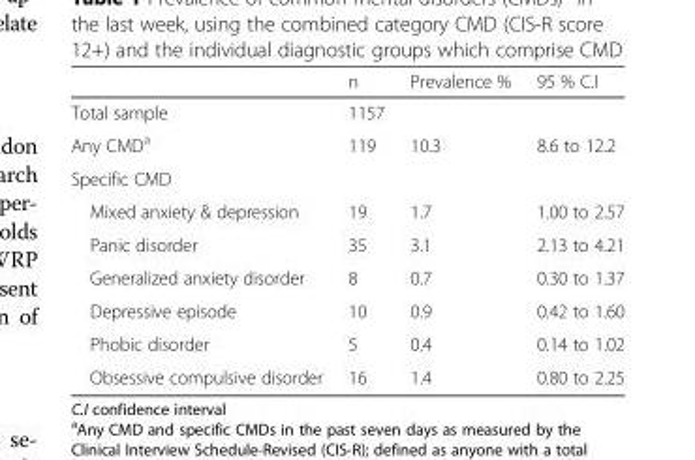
<table><thead><tr><td></td><td>n</td><td>Prevalence %</td><td>95 % C.I</td></tr></thead><tbody><tr><td>Total sample</td><td>1157</td><td></td><td></td></tr><tr><td>Any CMD<sup>a</sup></td><td>119</td><td>10.3</td><td>8.6 to 12.2</td></tr><tr><td colspan="4">Specific CMD</td></tr><tr><td>Mixed anxiety &amp; depression</td><td>19</td><td>1.7</td><td>1.00 to 2.57</td></tr><tr><td>Panic disorder</td><td>35</td><td>3.1</td><td>2.13 to 4.21</td></tr><tr><td>Generalized anxiety disorder</td><td>8</td><td>0.7</td><td>0.30 to 1.37</td></tr><tr><td>Depressive episode</td><td>10</td><td>0.9</td><td>0.42 to 1.60</td></tr><tr><td>Phobic disorder</td><td>5</td><td>0.4</td><td>0.14 to 1.02</td></tr><tr><td>Obsessive compulsive disorder</td><td>16</td><td>1.4</td><td>0.80 to 2.25</td></tr></tbody></table>